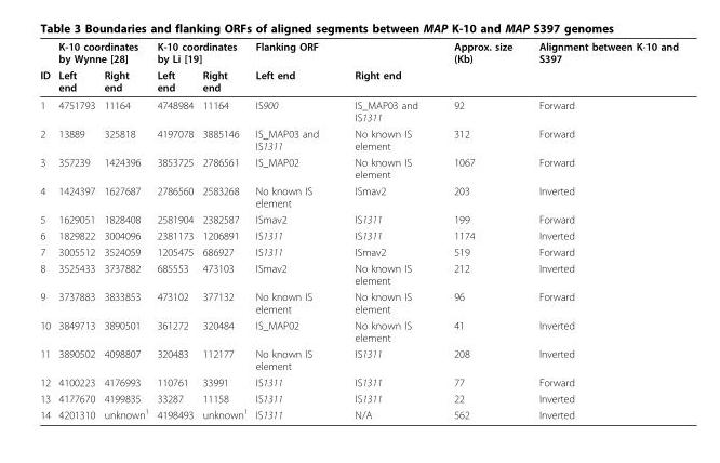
<table><thead><tr><td rowspan="2">ID</td><td colspan="2">K-10 coordinates by Wynne [28]</td><td colspan="2">K-10 coordinates by Li [19]</td><td colspan="2">Flanking ORF</td><td rowspan="2">Approx. size (Kb)</td><td rowspan="2">Alignment between K-10 and S397</td></tr><tr><td>Left end</td><td>Right end</td><td>Left end</td><td>Right end</td><td>Left end</td><td>Right end</td></tr></thead><tbody><tr><td>1</td><td>4751793</td><td>11164</td><td>4748984</td><td>11164</td><td>IS900</td><td>IS_MAP03 and IS1311</td><td>92</td><td>Forward</td></tr><tr><td>2</td><td>13889</td><td>325818</td><td>4197078</td><td>3885146</td><td>IS_MAP03 and IS1311</td><td>No known IS element</td><td>312</td><td>Forward</td></tr><tr><td>3</td><td>357239</td><td>1424396</td><td>3853725</td><td>2786561</td><td>IS_MAP02</td><td>No known IS element</td><td>1067</td><td>Forward</td></tr><tr><td>4</td><td>1424397</td><td>1627687</td><td>2786560</td><td>2583268</td><td>No known IS element</td><td>ISmav2</td><td>203</td><td>Inverted</td></tr><tr><td>5</td><td>1629051</td><td>1828408</td><td>2581904</td><td>2382587</td><td>ISmav2</td><td>IS1311</td><td>199</td><td>Forward</td></tr><tr><td>6</td><td>1829822</td><td>3004096</td><td>2381173</td><td>1206891</td><td>IS1311</td><td>IS1311</td><td>1174</td><td>Inverted</td></tr><tr><td>7</td><td>3005512</td><td>3524059</td><td>1205475</td><td>686927</td><td>IS1311</td><td>ISmav2</td><td>519</td><td>Forward</td></tr><tr><td>8</td><td>3525433</td><td>3737882</td><td>685553</td><td>473103</td><td>ISmav2</td><td>No known IS element</td><td>212</td><td>Inverted</td></tr><tr><td>9</td><td>3737883</td><td>3833853</td><td>473102</td><td>377132</td><td>No known IS element</td><td>No known IS element</td><td>96</td><td>Forward</td></tr><tr><td>10</td><td>3849713</td><td>3890501</td><td>361272</td><td>320484</td><td>IS_MAP02</td><td>No known IS element</td><td>41</td><td>Inverted</td></tr><tr><td>11</td><td>3890502</td><td>4098807</td><td>320483</td><td>112177</td><td>No known IS element</td><td>IS1311</td><td>208</td><td>Inverted</td></tr><tr><td>12</td><td>4100223</td><td>4176993</td><td>110761</td><td>33991</td><td>IS1311</td><td>IS1311</td><td>77</td><td>Forward</td></tr><tr><td>13</td><td>4177670</td><td>4199835</td><td>33287</td><td>11158</td><td>IS1311</td><td>IS1311</td><td>22</td><td>Inverted</td></tr><tr><td>14</td><td>4201310</td><td>unknown<sup>1</sup></td><td>4198493</td><td>unknown<sup>1</sup></td><td>IS1311</td><td>N/A</td><td>562</td><td>Inverted</td></tr></tbody></table>